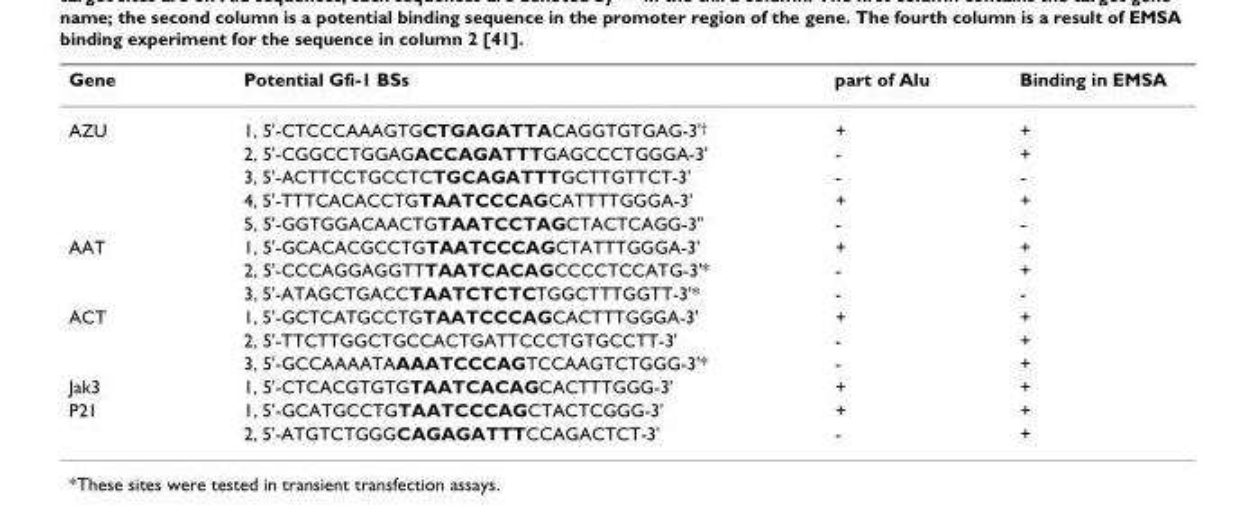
<table><thead><tr><td>Gene</td><td>Potential Gfi-1 BSs</td><td>part of Alu</td><td>Binding in EMSA</td></tr></thead><tbody><tr><td rowspan="5">AZU</td><td>1, 5&#x27;-CTCCCAAAGTGCTGAGATTACAGGTGTGAG-3&#x27;†</td><td>+</td><td>+</td></tr><tr><td>2, 5&#x27;-CGGCCTGGAGACCAGATTTGAGCCCTGGGA-3&#x27;</td><td>-</td><td>+</td></tr><tr><td>3, 5&#x27;-ACTTCCTGCCTCTGCAGATTTGCTTGTTCT-3&#x27;</td><td>-</td><td>-</td></tr><tr><td>4, 5&#x27;-TTTCACACCTGTAATCCCAGCATTTTGGGA-3&#x27;</td><td>+</td><td>+</td></tr><tr><td>5, 5&#x27;-GGTGGACAACTGTAATCCTAGCTACTCAGG-3&quot;</td><td>-</td><td>-</td></tr><tr><td rowspan="3">AAT</td><td>1, 5&#x27;-GCACACGCCTGTAATCCCAGCTATTTGGGA-3&#x27;</td><td>+</td><td>+</td></tr><tr><td>2, 5&#x27;-CCCAGGAGGTTTAATCACAGCCCCTCCATG-3&#x27;*</td><td>-</td><td>+</td></tr><tr><td>3, 5&#x27;-ATAGCTGACCTAATCTCTCTGGCTTTGGTT-3&#x27;*</td><td>-</td><td>-</td></tr><tr><td rowspan="3">ACT</td><td>1, 5&#x27;-GCTCATGCCTGTAATCCCAGCACTTTGGGA-3&#x27;</td><td>+</td><td>+</td></tr><tr><td>2, 5&#x27;-TTCTTGGCTGCCACTGATTCCCTGTGCCTT-3&#x27;</td><td>-</td><td>+</td></tr><tr><td>3, 5&#x27;-GCCAAAATAAAATCCCAGTCCAAGTCTGGG-3&#x27;*</td><td>-</td><td>+</td></tr><tr><td>Jak3</td><td>1, 5&#x27;-CTCACGTGTGTAATCACAGCACTTTGGG-3&#x27;</td><td>+</td><td>+</td></tr><tr><td rowspan="2">P21</td><td>1, 5&#x27;-GCATGCCTGTAATCCCAGCTACTCGGG-3&#x27;</td><td>+</td><td>+</td></tr><tr><td>2, 5&#x27;-ATGTCTGGGCAGAGATTTCCAGACTCT-3&#x27;</td><td>-</td><td>+</td></tr></tbody></table>